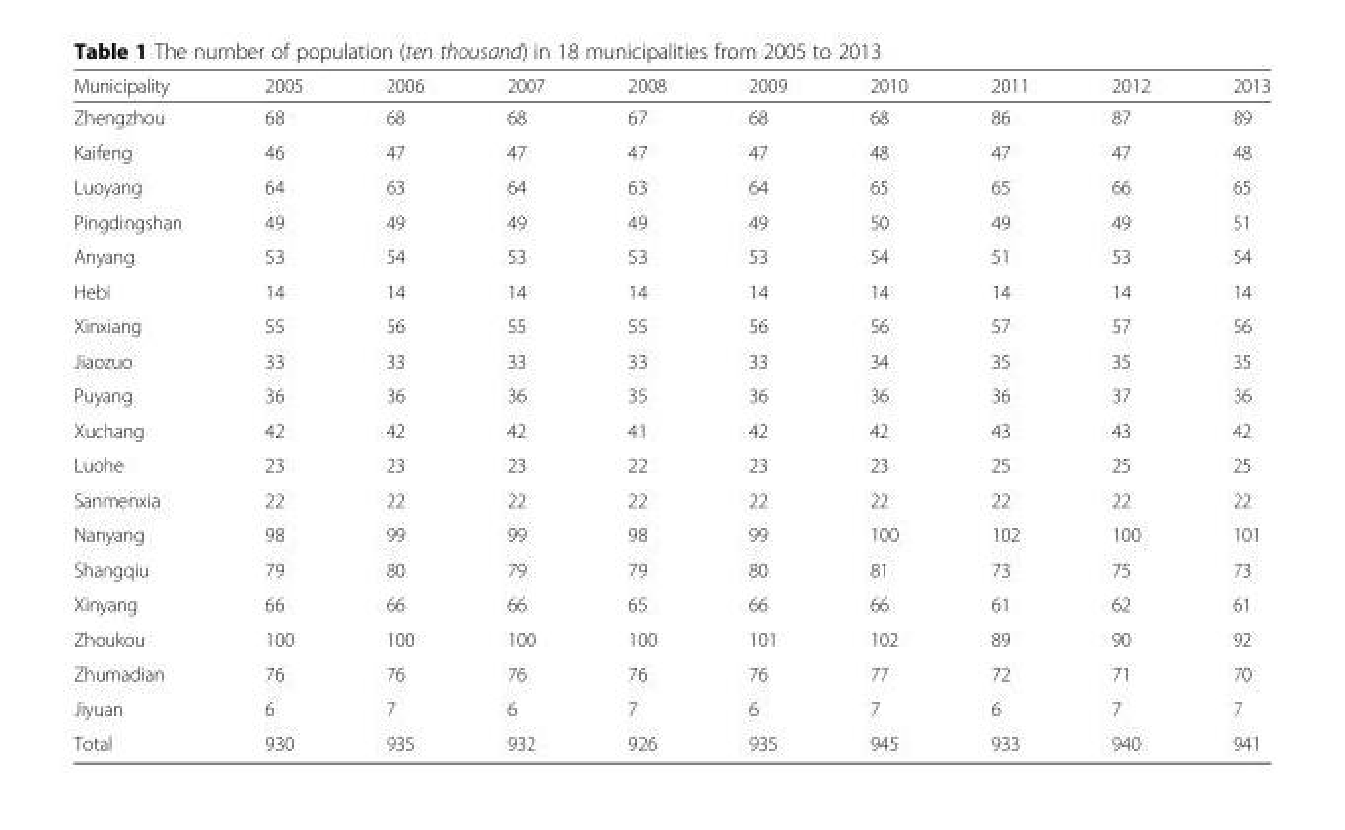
<table><thead><tr><td>Municipality</td><td>2005</td><td>2006</td><td>2007</td><td>2008</td><td>2009</td><td>2010</td><td>2011</td><td>2012</td><td>2013</td></tr></thead><tbody><tr><td>Zhengzhou</td><td>68</td><td>68</td><td>68</td><td>67</td><td>68</td><td>68</td><td>86</td><td>87</td><td>89</td></tr><tr><td>Kaifeng</td><td>46</td><td>47</td><td>47</td><td>47</td><td>47</td><td>48</td><td>47</td><td>47</td><td>48</td></tr><tr><td>Luoyang</td><td>64</td><td>63</td><td>64</td><td>63</td><td>64</td><td>65</td><td>65</td><td>66</td><td>65</td></tr><tr><td>Pingdingshan</td><td>49</td><td>49</td><td>49</td><td>49</td><td>49</td><td>50</td><td>49</td><td>49</td><td>51</td></tr><tr><td>Anyang</td><td>53</td><td>54</td><td>53</td><td>53</td><td>53</td><td>54</td><td>51</td><td>53</td><td>54</td></tr><tr><td>Hebi</td><td>14</td><td>14</td><td>14</td><td>14</td><td>14</td><td>14</td><td>14</td><td>14</td><td>14</td></tr><tr><td>Xinxiang</td><td>55</td><td>56</td><td>55</td><td>55</td><td>56</td><td>56</td><td>57</td><td>57</td><td>56</td></tr><tr><td>Jiaozuo</td><td>33</td><td>33</td><td>33</td><td>33</td><td>33</td><td>34</td><td>35</td><td>35</td><td>35</td></tr><tr><td>Puyang</td><td>36</td><td>36</td><td>36</td><td>35</td><td>36</td><td>36</td><td>36</td><td>37</td><td>36</td></tr><tr><td>Xuchang</td><td>42</td><td>42</td><td>42</td><td>41</td><td>42</td><td>42</td><td>43</td><td>43</td><td>42</td></tr><tr><td>Luohe</td><td>23</td><td>23</td><td>23</td><td>22</td><td>23</td><td>23</td><td>25</td><td>25</td><td>25</td></tr><tr><td>Sanmenxia</td><td>22</td><td>22</td><td>22</td><td>22</td><td>22</td><td>22</td><td>22</td><td>22</td><td>22</td></tr><tr><td>Nanyang</td><td>98</td><td>99</td><td>99</td><td>98</td><td>99</td><td>100</td><td>102</td><td>100</td><td>101</td></tr><tr><td>Shangqiu</td><td>79</td><td>80</td><td>79</td><td>79</td><td>80</td><td>81</td><td>73</td><td>75</td><td>73</td></tr><tr><td>Xinyang</td><td>66</td><td>66</td><td>66</td><td>65</td><td>66</td><td>66</td><td>61</td><td>62</td><td>61</td></tr><tr><td>Zhoukou</td><td>100</td><td>100</td><td>100</td><td>100</td><td>101</td><td>102</td><td>89</td><td>90</td><td>92</td></tr><tr><td>Zhumadian</td><td>76</td><td>76</td><td>76</td><td>76</td><td>76</td><td>77</td><td>72</td><td>71</td><td>70</td></tr><tr><td>Jiyuan</td><td>6</td><td>7</td><td>6</td><td>7</td><td>6</td><td>7</td><td>6</td><td>7</td><td>7</td></tr><tr><td>Total</td><td>930</td><td>935</td><td>932</td><td>926</td><td>935</td><td>945</td><td>933</td><td>940</td><td>941</td></tr></tbody></table>